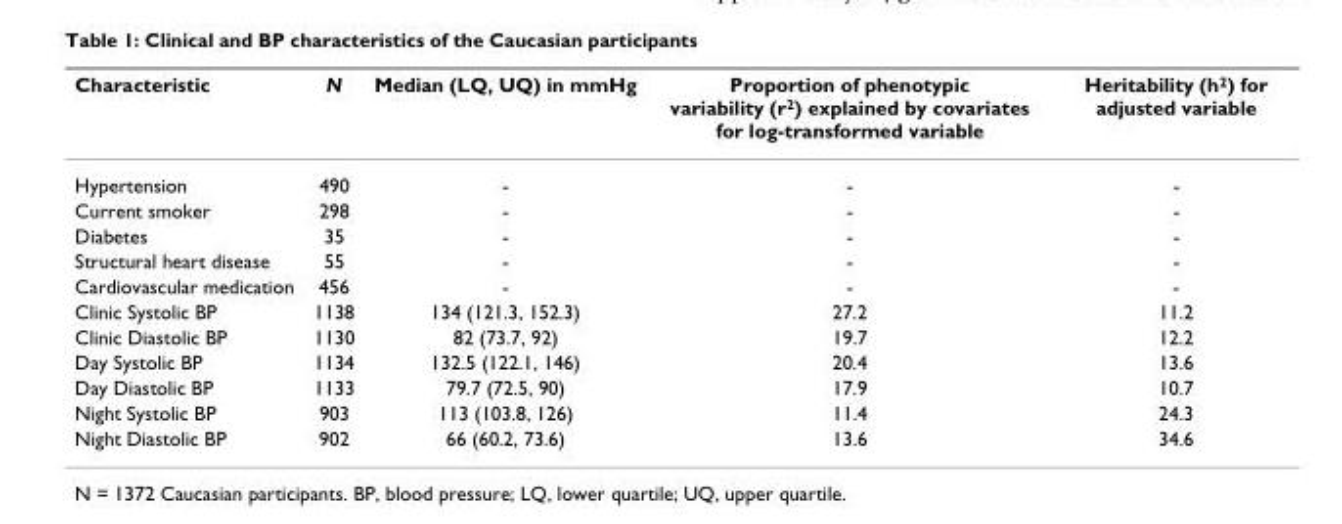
<table><thead><tr><td>Characteristic</td><td>N</td><td>Median (LQ, UQ) in mmHg</td><td>Proportion of phenotypic variability (r<sup>2</sup>) explained by covariates for log-transformed variable</td><td>Heritability (h<sup>2</sup>) for adjusted variable</td></tr></thead><tbody><tr><td>Hypertension</td><td>490</td><td>-</td><td>-</td><td>-</td></tr><tr><td>Current smoker</td><td>298</td><td>-</td><td>-</td><td>-</td></tr><tr><td>Diabetes</td><td>35</td><td>-</td><td>-</td><td>-</td></tr><tr><td>Structural heart disease</td><td>55</td><td>-</td><td>-</td><td>-</td></tr><tr><td>Cardiovascular medication</td><td>456</td><td>-</td><td>-</td><td>-</td></tr><tr><td>Clinic Systolic BP</td><td>1138</td><td>134 (121.3, 152.3)</td><td>27.2</td><td>11.2</td></tr><tr><td>Clinic Diastolic BP</td><td>1130</td><td>82 (73.7, 92)</td><td>19.7</td><td>12.2</td></tr><tr><td>Day Systolic BP</td><td>1134</td><td>132.5 (122.1, 146)</td><td>20.4</td><td>13.6</td></tr><tr><td>Day Diastolic BP</td><td>1133</td><td>79.7 (72.5, 90)</td><td>17.9</td><td>10.7</td></tr><tr><td>Night Systolic BP</td><td>903</td><td>113 (103.8, 126)</td><td>11.4</td><td>24.3</td></tr><tr><td>Night Diastolic BP</td><td>902</td><td>66 (60.2, 73.6)</td><td>13.6</td><td>34.6</td></tr></tbody></table>